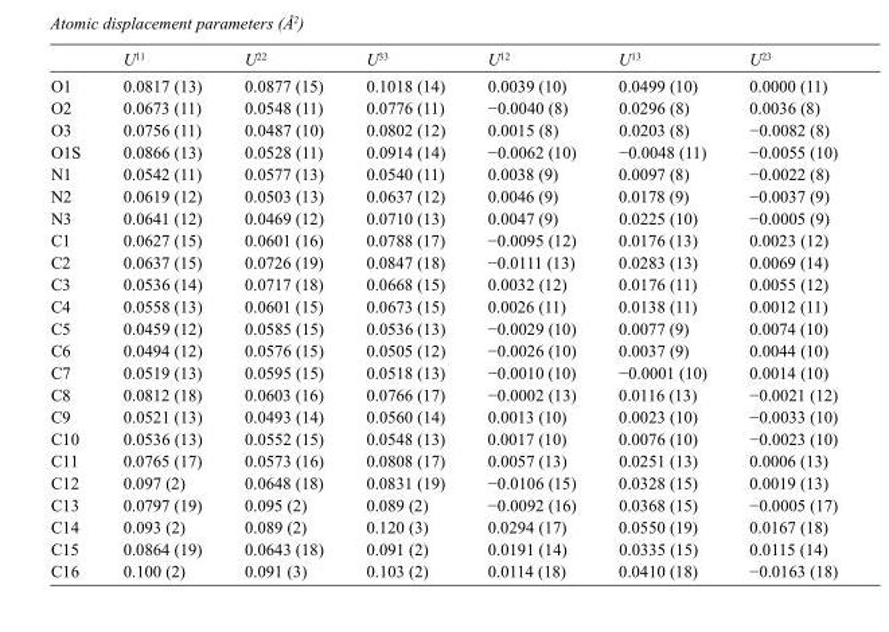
<table><thead><tr><td></td><td>U<sup>11</sup></td><td>U<sup>22</sup></td><td>U<sup>33</sup></td><td>U<sup>12</sup></td><td>U<sup>13</sup></td><td>U<sup>23</sup></td></tr></thead><tbody><tr><td>O1</td><td>0.0817 (13)</td><td>0.0877 (15)</td><td>0.1018 (14)</td><td>0.0039 (10)</td><td>0.0499 (10)</td><td>0.0000 (11)</td></tr><tr><td>O2</td><td>0.0673 (11)</td><td>0.0548 (11)</td><td>0.0776 (11)</td><td>−0.0040 (8)</td><td>0.0296 (8)</td><td>0.0036 (8)</td></tr><tr><td>O3</td><td>0.0756 (11)</td><td>0.0487 (10)</td><td>0.0802 (12)</td><td>0.0015 (8)</td><td>0.0203 (8)</td><td>−0.0082 (8)</td></tr><tr><td>O1S</td><td>0.0866 (13)</td><td>0.0528 (11)</td><td>0.0914 (14)</td><td>−0.0062 (10)</td><td>−0.0048 (11)</td><td>−0.0055 (10)</td></tr><tr><td>N1</td><td>0.0542 (11)</td><td>0.0577 (13)</td><td>0.0540 (11)</td><td>0.0038 (9)</td><td>0.0097 (8)</td><td>−0.0022 (8)</td></tr><tr><td>N2</td><td>0.0619 (12)</td><td>0.0503 (13)</td><td>0.0637 (12)</td><td>0.0046 (9)</td><td>0.0178 (9)</td><td>−0.0037 (9)</td></tr><tr><td>N3</td><td>0.0641 (12)</td><td>0.0469 (12)</td><td>0.0710 (13)</td><td>0.0047 (9)</td><td>0.0225 (10)</td><td>−0.0005 (9)</td></tr><tr><td>C1</td><td>0.0627 (15)</td><td>0.0601 (16)</td><td>0.0788 (17)</td><td>−0.0095 (12)</td><td>0.0176 (13)</td><td>0.0023 (12)</td></tr><tr><td>C2</td><td>0.0637 (15)</td><td>0.0726 (19)</td><td>0.0847 (18)</td><td>−0.0111 (13)</td><td>0.0283 (13)</td><td>0.0069 (14)</td></tr><tr><td>C3</td><td>0.0536 (14)</td><td>0.0717 (18)</td><td>0.0668 (15)</td><td>0.0032 (12)</td><td>0.0176 (11)</td><td>0.0055 (12)</td></tr><tr><td>C4</td><td>0.0558 (13)</td><td>0.0601 (15)</td><td>0.0673 (15)</td><td>0.0026 (11)</td><td>0.0138 (11)</td><td>0.0012 (11)</td></tr><tr><td>C5</td><td>0.0459 (12)</td><td>0.0585 (15)</td><td>0.0536 (13)</td><td>−0.0029 (10)</td><td>0.0077 (9)</td><td>0.0074 (10)</td></tr><tr><td>C6</td><td>0.0494 (12)</td><td>0.0576 (15)</td><td>0.0505 (12)</td><td>−0.0026 (10)</td><td>0.0037 (9)</td><td>0.0044 (10)</td></tr><tr><td>C7</td><td>0.0519 (13)</td><td>0.0595 (15)</td><td>0.0518 (13)</td><td>−0.0010 (10)</td><td>−0.0001 (10)</td><td>0.0014 (10)</td></tr><tr><td>C8</td><td>0.0812 (18)</td><td>0.0603 (16)</td><td>0.0766 (17)</td><td>−0.0002 (13)</td><td>0.0116 (13)</td><td>−0.0021 (12)</td></tr><tr><td>C9</td><td>0.0521 (13)</td><td>0.0493 (14)</td><td>0.0560 (14)</td><td>0.0013 (10)</td><td>0.0023 (10)</td><td>−0.0033 (10)</td></tr><tr><td>C10</td><td>0.0536 (13)</td><td>0.0552 (15)</td><td>0.0548 (13)</td><td>0.0017 (10)</td><td>0.0076 (10)</td><td>−0.0023 (10)</td></tr><tr><td>C11</td><td>0.0765 (17)</td><td>0.0573 (16)</td><td>0.0808 (17)</td><td>0.0057 (13)</td><td>0.0251 (13)</td><td>0.0006 (13)</td></tr><tr><td>C12</td><td>0.097 (2)</td><td>0.0648 (18)</td><td>0.0831 (19)</td><td>−0.0106 (15)</td><td>0.0328 (15)</td><td>0.0019 (13)</td></tr><tr><td>C13</td><td>0.0797 (19)</td><td>0.095 (2)</td><td>0.089 (2)</td><td>−0.0092 (16)</td><td>0.0368 (15)</td><td>−0.0005 (17)</td></tr><tr><td>C14</td><td>0.093 (2)</td><td>0.089 (2)</td><td>0.120 (3)</td><td>0.0294 (17)</td><td>0.0550 (19)</td><td>0.0167 (18)</td></tr><tr><td>C15</td><td>0.0864 (19)</td><td>0.0643 (18)</td><td>0.091 (2)</td><td>0.0191 (14)</td><td>0.0335 (15)</td><td>0.0115 (14)</td></tr><tr><td>C16</td><td>0.100 (2)</td><td>0.091 (3)</td><td>0.103 (2)</td><td>0.0114 (18)</td><td>0.0410 (18)</td><td>−0.0163 (18)</td></tr></tbody></table>